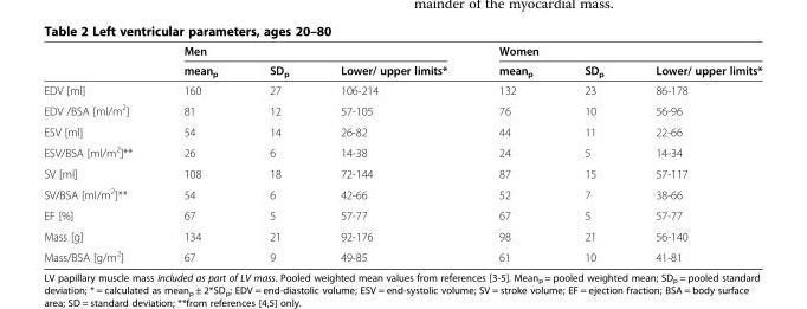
<table><thead><tr><td rowspan="2"></td><td colspan="3">Men</td><td colspan="3">Women</td></tr><tr><td>mean<sub>p</sub></td><td>SD<sub>p</sub></td><td>Lower/ upper limits*</td><td>mean<sub>p</sub></td><td>SD<sub>p</sub></td><td>Lower/ upper limits*</td></tr></thead><tbody><tr><td>EDV [ml]</td><td>160</td><td>27</td><td>106-214</td><td>132</td><td>23</td><td>86-178</td></tr><tr><td>EDV /BSA [ml/m<sup>2</sup>]</td><td>81</td><td>12</td><td>57-105</td><td>76</td><td>10</td><td>56-96</td></tr><tr><td>ESV [ml]</td><td>54</td><td>14</td><td>26-82</td><td>44</td><td>11</td><td>22-66</td></tr><tr><td>ESV/BSA [ml/m<sup>2</sup>]**</td><td>26</td><td>6</td><td>14-38</td><td>24</td><td>5</td><td>14-34</td></tr><tr><td>SV [ml]</td><td>108</td><td>18</td><td>72-144</td><td>87</td><td>15</td><td>57-117</td></tr><tr><td>SV/BSA [ml/m<sup>2</sup>]**</td><td>54</td><td>6</td><td>42-66</td><td>52</td><td>7</td><td>38-66</td></tr><tr><td>EF [%]</td><td>67</td><td>5</td><td>57-77</td><td>67</td><td>5</td><td>57-77</td></tr><tr><td>Mass [g]</td><td>134</td><td>21</td><td>92-176</td><td>98</td><td>21</td><td>56-140</td></tr><tr><td>Mass/BSA [g/m<sup>2</sup>]</td><td>67</td><td>9</td><td>49-85</td><td>61</td><td>10</td><td>41-81</td></tr></tbody></table>